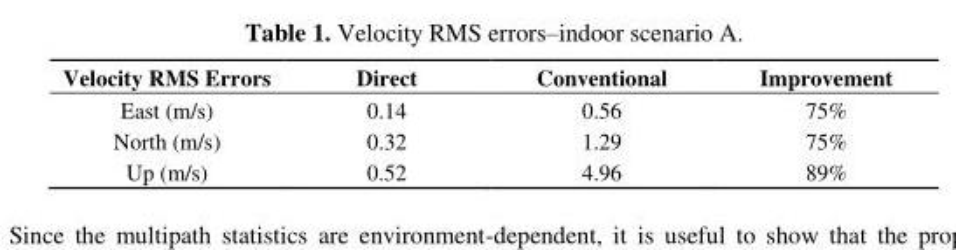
<table><thead><tr><td>Velocity RMS Errors</td><td>Direct</td><td>Conventional</td><td>Improvement</td></tr></thead><tbody><tr><td>East (m/s)</td><td>0.14</td><td>0.56</td><td>75%</td></tr><tr><td>North (m/s)</td><td>0.32</td><td>1.29</td><td>75%</td></tr><tr><td>Up (m/s)</td><td>0.52</td><td>4.96</td><td>89%</td></tr></tbody></table>